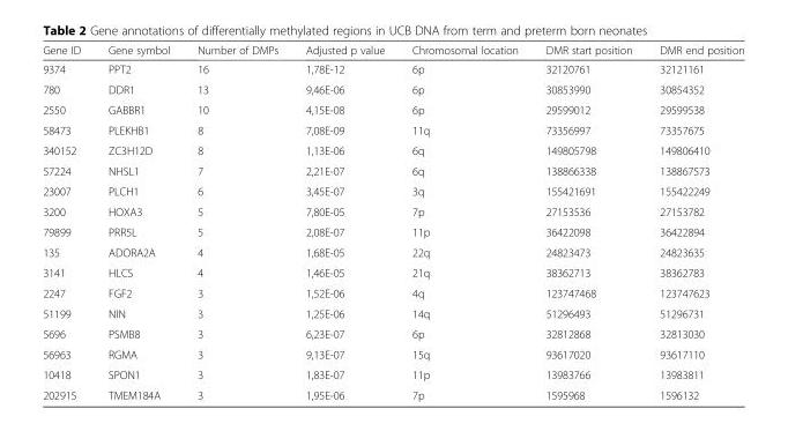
<table><thead><tr><td>Gene ID</td><td>Gene symbol</td><td>Number of DMPs</td><td>Adjusted p value</td><td>Chromosomal location</td><td>DMR start position</td><td>DMR end position</td></tr></thead><tbody><tr><td>9374</td><td>PPT2</td><td>16</td><td>1,78E-12</td><td>6p</td><td>32120761</td><td>32121161</td></tr><tr><td>780</td><td>DDR1</td><td>13</td><td>9,46E-06</td><td>6p</td><td>30853990</td><td>30854352</td></tr><tr><td>2550</td><td>GABBR1</td><td>10</td><td>4,15E-08</td><td>6p</td><td>29599012</td><td>29599538</td></tr><tr><td>58473</td><td>PLEKHB1</td><td>8</td><td>7,08E-09</td><td>11q</td><td>73356997</td><td>73357675</td></tr><tr><td>340152</td><td>ZC3H12D</td><td>8</td><td>1,13E-06</td><td>6q</td><td>149805798</td><td>149806410</td></tr><tr><td>57224</td><td>NHSL1</td><td>7</td><td>2,21E-07</td><td>6q</td><td>138866338</td><td>138867573</td></tr><tr><td>23007</td><td>PLCH1</td><td>6</td><td>3,45E-07</td><td>3q</td><td>155421691</td><td>155422249</td></tr><tr><td>3200</td><td>HOXA3</td><td>5</td><td>7,80E-05</td><td>7p</td><td>27153536</td><td>27153782</td></tr><tr><td>79899</td><td>PRR5L</td><td>5</td><td>2,08E-07</td><td>11p</td><td>36422098</td><td>36422894</td></tr><tr><td>135</td><td>ADORA2A</td><td>4</td><td>1,68E-05</td><td>22q</td><td>24823473</td><td>24823635</td></tr><tr><td>3141</td><td>HLCS</td><td>4</td><td>1,46E-05</td><td>21q</td><td>38362713</td><td>38362783</td></tr><tr><td>2247</td><td>FGF2</td><td>3</td><td>1,52E-06</td><td>4q</td><td>123747468</td><td>123747623</td></tr><tr><td>51199</td><td>NIN</td><td>3</td><td>1,25E-06</td><td>14q</td><td>51296493</td><td>51296731</td></tr><tr><td>5696</td><td>PSMB8</td><td>3</td><td>6,23E-07</td><td>6p</td><td>32812868</td><td>32813030</td></tr><tr><td>56963</td><td>RGMA</td><td>3</td><td>9,13E-07</td><td>15q</td><td>93617020</td><td>93617110</td></tr><tr><td>10418</td><td>SPON1</td><td>3</td><td>1,83E-07</td><td>11p</td><td>13983766</td><td>13983811</td></tr><tr><td>202915</td><td>TMEM184A</td><td>3</td><td>1,95E-06</td><td>7p</td><td>1595968</td><td>1596132</td></tr></tbody></table>